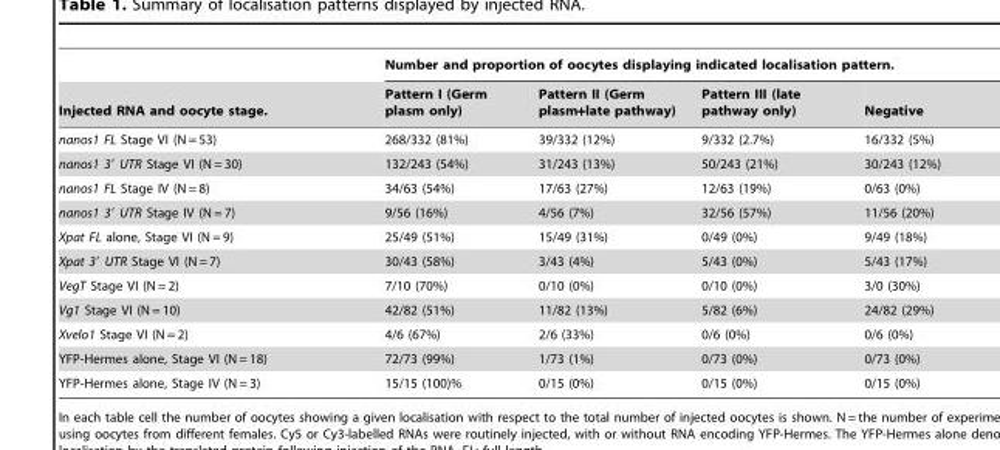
<table><thead><tr><td rowspan="2">Injected RNA and oocyte stage.</td><td colspan="4">Number and proportion of oocytes displaying indicated localisation pattern.</td></tr><tr><td>Pattern I (Germ plasm only)</td><td>Pattern II (Germ plasm+late pathway)</td><td>Pattern III (late pathway only)</td><td>Negative</td></tr></thead><tbody><tr><td>nanos1 FL Stage VI (N = 53)</td><td>268/332 (81%)</td><td>39/332 (12%)</td><td>9/332 (2.7%)</td><td>16/332 (5%)</td></tr><tr><td>nanos1 3′ UTR Stage VI (N = 30)</td><td>132/243 (54%)</td><td>31/243 (13%)</td><td>50/243 (21%)</td><td>30/243 (12%)</td></tr><tr><td>nanos1 FL Stage IV (N = 8)</td><td>34/63 (54%)</td><td>17/63 (27%)</td><td>12/63 (19%)</td><td>0/63 (0%)</td></tr><tr><td>nanos1 3′ UTR Stage IV (N = 7)</td><td>9/56 (16%)</td><td>4/56 (7%)</td><td>32/56 (57%)</td><td>11/56 (20%)</td></tr><tr><td>Xpat FL alone, Stage VI (N = 9)</td><td>25/49 (51%)</td><td>15/49 (31%)</td><td>0/49 (0%)</td><td>9/49 (18%)</td></tr><tr><td>Xpat 3′ UTR Stage VI (N = 7)</td><td>30/43 (58%)</td><td>3/43 (4%)</td><td>5/43 (0%)</td><td>5/43 (17%)</td></tr><tr><td>VegT Stage VI (N = 2)</td><td>7/10 (70%)</td><td>0/10 (0%)</td><td>0/10 (0%)</td><td>3/0 (30%)</td></tr><tr><td>Vg1 Stage VI (N = 10)</td><td>42/82 (51%)</td><td>11/82 (13%)</td><td>5/82 (6%)</td><td>24/82 (29%)</td></tr><tr><td>Xvelo1 Stage VI (N = 2)</td><td>4/6 (67%)</td><td>2/6 (33%)</td><td>0/6 (0%)</td><td>0/6 (0%)</td></tr><tr><td>YFP-Hermes alone, Stage VI (N = 18)</td><td>72/73 (99%)</td><td>1/73 (1%)</td><td>0/73 (0%)</td><td>0/73 (0%)</td></tr><tr><td>YFP-Hermes alone, Stage IV (N = 3)</td><td>15/15 (100)%</td><td>0/15 (0%)</td><td>0/15 (0%)</td><td>0/15 (0%)</td></tr></tbody></table>